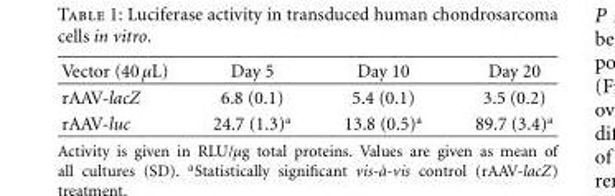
<table><thead><tr><td>Vector (40 μL)</td><td>Day 5</td><td>Day 10</td><td>Day 20</td></tr></thead><tbody><tr><td>rAAV-lacZ</td><td>6.8 (0.1)</td><td>5.4 (0.1)</td><td>3.5 (0.2)</td></tr><tr><td>rAAV-luc</td><td>24.7 (1.3)<sup>a</sup></td><td>13.8 (0.5)<sup>a</sup></td><td>89.7 (3.4)<sup>a</sup></td></tr></tbody></table>